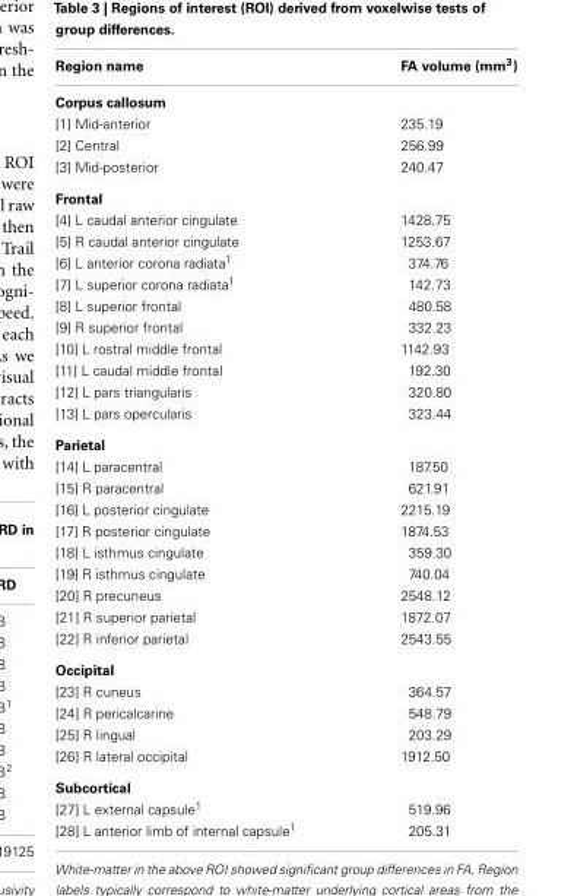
<table><thead><tr><td>Region name</td><td>FA volume (mm<sup>3</sup>)</td></tr></thead><tbody><tr><td colspan="2">Corpus callosum</td></tr><tr><td>[1] Mid-anterior</td><td>235.19</td></tr><tr><td>[2] Central</td><td>256.99</td></tr><tr><td>[3] Mid-posterior</td><td>240.47</td></tr><tr><td colspan="2">Frontal</td></tr><tr><td>[4] L caudal anterior cingulate</td><td>1428.75</td></tr><tr><td>[5] R caudal anterior cingulate</td><td>1253.67</td></tr><tr><td>[6] L anterior corona radiata<sup>1</sup></td><td>374.76</td></tr><tr><td>[7] L superior corona radiata<sup>1</sup></td><td>142.73</td></tr><tr><td>[8] L superior frontal</td><td>480.58</td></tr><tr><td>[9] R superior frontal</td><td>332.23</td></tr><tr><td>[10] L rostral middle frontal</td><td>1142.93</td></tr><tr><td>[11] L caudal middle frontal</td><td>192.30</td></tr><tr><td>[12] L pars triangularis</td><td>320.80</td></tr><tr><td>[13] L pars opercularis</td><td>323.44</td></tr><tr><td colspan="2">Parietal</td></tr><tr><td>[14] L paracentral</td><td>187.50</td></tr><tr><td>[15] R paracentral</td><td>621.91</td></tr><tr><td>[16] L posterior cingulate</td><td>2215.19</td></tr><tr><td>[17] R posterior cingulate</td><td>1874.53</td></tr><tr><td>[18] L isthmus cingulate</td><td>359.30</td></tr><tr><td>[19] R isthmus cingulate</td><td>740.04</td></tr><tr><td>[20] R precuneus</td><td>2548.12</td></tr><tr><td>[21] R superior parietal</td><td>1872.07</td></tr><tr><td>[22] R inferior parietal</td><td>2543.55</td></tr><tr><td colspan="2">Occipital</td></tr><tr><td>[23] R cuneus</td><td>364.57</td></tr><tr><td>[24] R pericalcarine</td><td>548.79</td></tr><tr><td>[25] R lingual</td><td>203.29</td></tr><tr><td>[26] R lateral occipital</td><td>1912.50</td></tr><tr><td colspan="2">Subcortical</td></tr><tr><td>[27] L external capsule<sup>1</sup></td><td>519.96</td></tr><tr><td>[28] L anterior limb of internal capsule<sup>1</sup></td><td>205.31</td></tr></tbody></table>